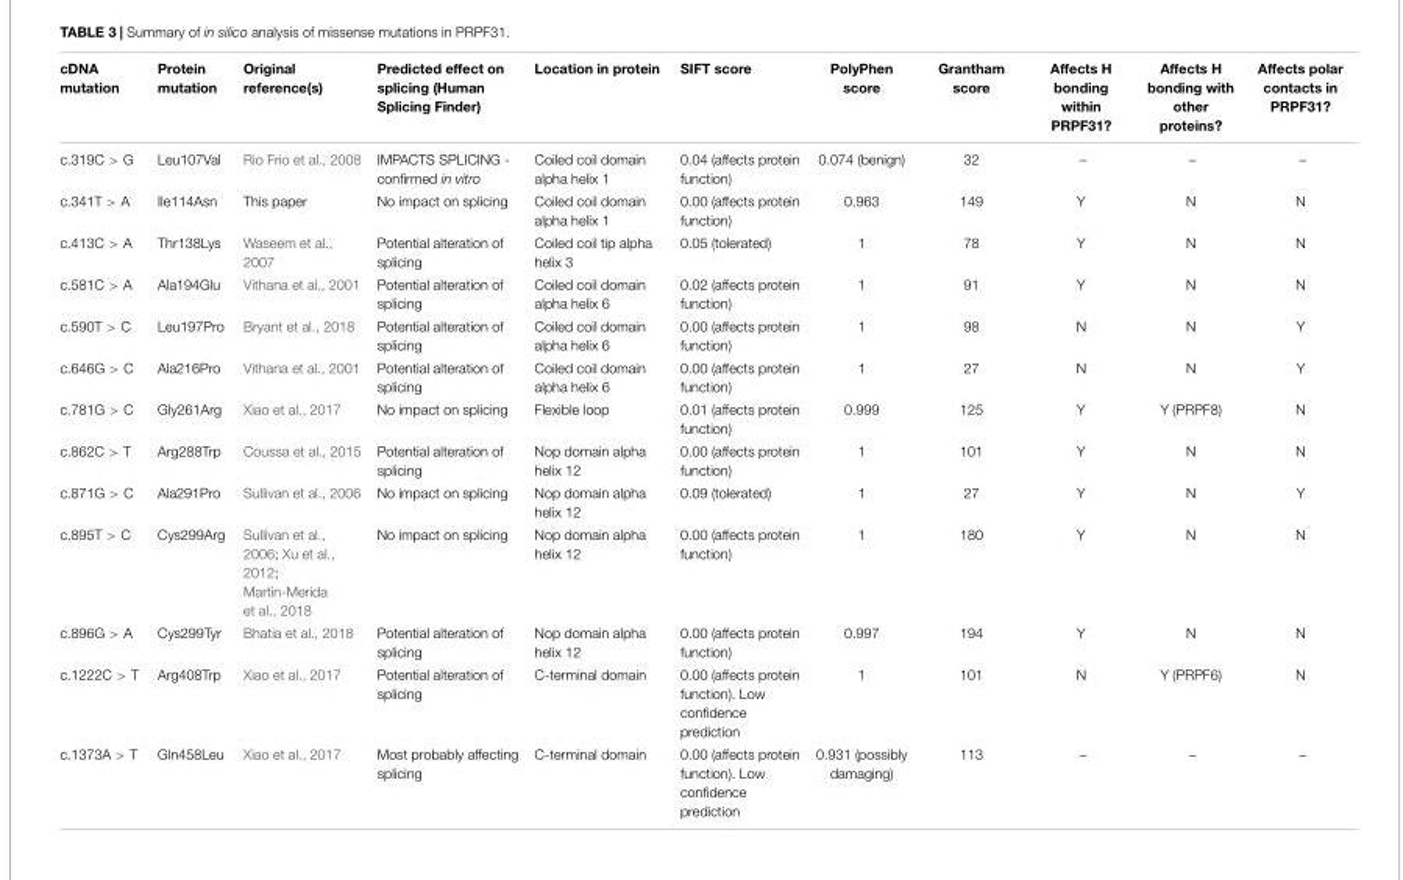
<table><thead><tr><td>cDNA mutation</td><td>Protein mutation</td><td>Original reference(s)</td><td>Predicted effect on splicing (Human Splicing Finder)</td><td>Location in protein</td><td>SIFT score</td><td>PolyPhen score</td><td>Grantham score</td><td>Affects H bonding within PRPF31?</td><td>Affects H bonding with other proteins?</td><td>Affects polar contacts in PRPF31?</td></tr></thead><tbody><tr><td>c.319C &gt; G</td><td>Leu107Val</td><td>Rio Frio et al., 2008</td><td>IMPACTS SPLICING - confirmed in vitro</td><td>Coiled coil domain alpha helix 1</td><td>0.04 (affects protein function)</td><td>0.074 (benign)</td><td>32</td><td>–</td><td>–</td><td>–</td></tr><tr><td>c.341T &gt; A</td><td>Ile114Asn</td><td>This paper</td><td>No impact on splicing</td><td>Coiled coil domain alpha helix 1</td><td>0.00 (affects protein function)</td><td>0.963</td><td>149</td><td>Y</td><td>N</td><td>N</td></tr><tr><td>c.413C &gt; A</td><td>Thr138Lys</td><td>Waseem et al., 2007</td><td>Potential alteration of splicing</td><td>Coiled coil tip alpha helix 3</td><td>0.05 (tolerated)</td><td>1</td><td>78</td><td>Y</td><td>N</td><td>N</td></tr><tr><td>c.581C &gt; A</td><td>Ala194Glu</td><td>Vithana et al., 2001</td><td>Potential alteration of splicing</td><td>Coiled coil domain alpha helix 6</td><td>0.02 (affects protein function)</td><td>1</td><td>91</td><td>Y</td><td>N</td><td>N</td></tr><tr><td>c.590T &gt; C</td><td>Leu197Pro</td><td>Bryant et al., 2018</td><td>Potential alteration of splicing</td><td>Coiled coil domain alpha helix 6</td><td>0.00 (affects protein function)</td><td>1</td><td>98</td><td>N</td><td>N</td><td>Y</td></tr><tr><td>c.646G &gt; C</td><td>Ala216Pro</td><td>Vithana et al., 2001</td><td>Potential alteration of splicing</td><td>Coiled coil domain alpha helix 6</td><td>0.00 (affects protein function)</td><td>1</td><td>27</td><td>N</td><td>N</td><td>Y</td></tr><tr><td>c.781G &gt; C</td><td>Gly261Arg</td><td>Xiao et al., 2017</td><td>No impact on splicing</td><td>Flexible loop</td><td>0.01 (affects protein function)</td><td>0.999</td><td>125</td><td>Y</td><td>Y (PRPF8)</td><td>N</td></tr><tr><td>c.862C &gt; T</td><td>Arg288Trp</td><td>Coussa et al., 2015</td><td>Potential alteration of splicing</td><td>Nop domain alpha helix 12</td><td>0.00 (affects protein function)</td><td>1</td><td>101</td><td>Y</td><td>N</td><td>N</td></tr><tr><td>c.871G &gt; C</td><td>Ala291Pro</td><td>Sullivan et al., 2006</td><td>No impact on splicing</td><td>Nop domain alpha helix 12</td><td>0.09 (tolerated)</td><td>1</td><td>27</td><td>Y</td><td>N</td><td>Y</td></tr><tr><td>c.895T &gt; C</td><td>Cys299Arg</td><td>Sullivan et al., 2006; Xu et al., 2012; Martin-Merida et al., 2018</td><td>No impact on splicing</td><td>Nop domain alpha helix 12</td><td>0.00 (affects protein function)</td><td>1</td><td>180</td><td>Y</td><td>N</td><td>N</td></tr><tr><td>c.896G &gt; A</td><td>Cys299Tyr</td><td>Bhatia et al., 2018</td><td>Potential alteration of splicing</td><td>Nop domain alpha helix 12</td><td>0.00 (affects protein function)</td><td>0.997</td><td>194</td><td>Y</td><td>N</td><td>N</td></tr><tr><td>c.1222C &gt; T</td><td>Arg408Trp</td><td>Xiao et al., 2017</td><td>Potential alteration of splicing</td><td>C-terminal domain</td><td>0.00 (affects protein function). Low confidence prediction</td><td>1</td><td>101</td><td>N</td><td>Y (PRPF6)</td><td>N</td></tr><tr><td>c.1373A &gt; T</td><td>Gln458Leu</td><td>Xiao et al., 2017</td><td>Most probably affecting splicing</td><td>C-terminal domain</td><td>0.00 (affects protein function). Low confidence prediction</td><td>0.931 (possibly damaging)</td><td>113</td><td>–</td><td>–</td><td>–</td></tr></tbody></table>